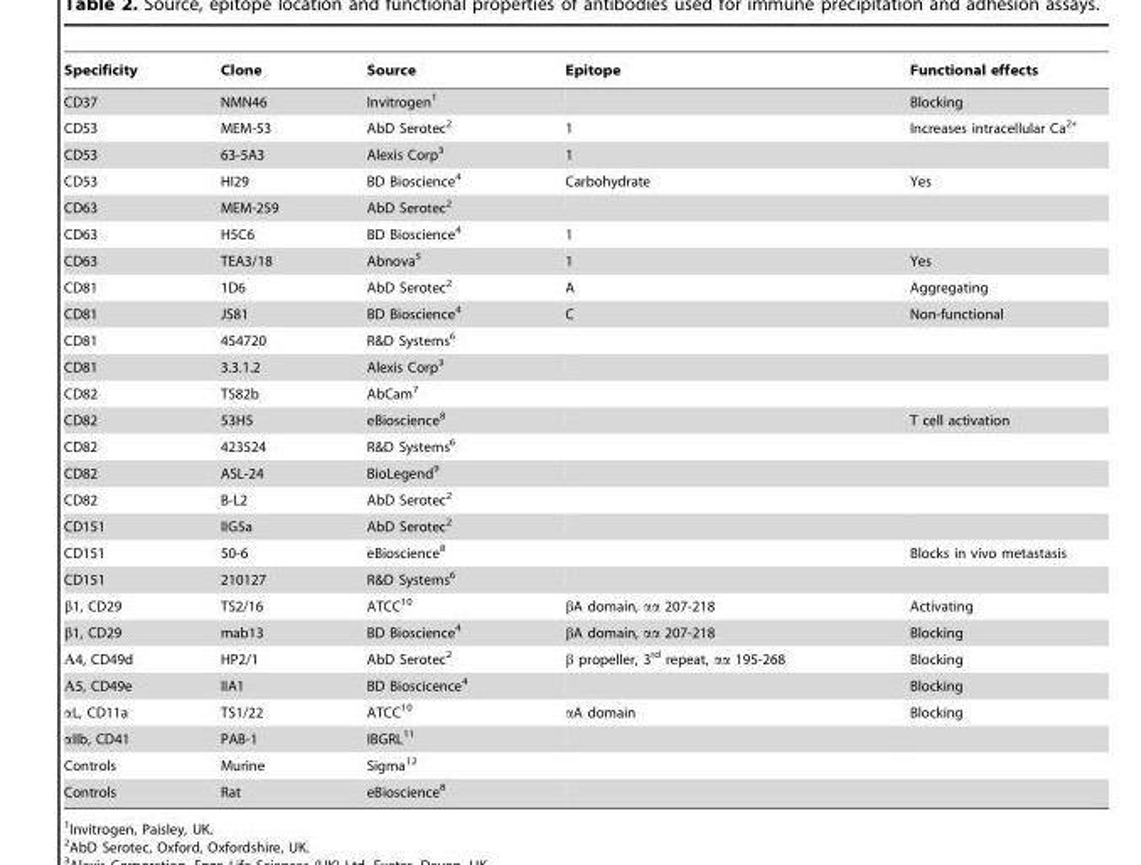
<table><thead><tr><td>Specificity</td><td>Clone</td><td>Source</td><td>Epitope</td><td>Functional effects</td></tr></thead><tbody><tr><td>CD37</td><td>NMN46</td><td>Invitrogen<sup>1</sup></td><td></td><td>Blocking</td></tr><tr><td>CD53</td><td>MEM-53</td><td>AbD Serotec<sup>2</sup></td><td>1</td><td>Increases intracellular Ca<sup>2+</sup></td></tr><tr><td>CD53</td><td>63-5A3</td><td>Alexis Corp<sup>3</sup></td><td>1</td><td></td></tr><tr><td>CD53</td><td>HI29</td><td>BD Bioscience<sup>4</sup></td><td>Carbohydrate</td><td>Yes</td></tr><tr><td>CD63</td><td>MEM-259</td><td>AbD Serotec<sup>2</sup></td><td></td><td></td></tr><tr><td>CD63</td><td>H5C6</td><td>BD Bioscience<sup>4</sup></td><td>1</td><td></td></tr><tr><td>CD63</td><td>TEA3/18</td><td>Abnova<sup>5</sup></td><td>1</td><td>Yes</td></tr><tr><td>CD81</td><td>1D6</td><td>AbD Serotec<sup>2</sup></td><td>A</td><td>Aggregating</td></tr><tr><td>CD81</td><td>JS81</td><td>BD Bioscience<sup>4</sup></td><td>C</td><td>Non-functional</td></tr><tr><td>CD81</td><td>454720</td><td>R&amp;D Systems<sup>6</sup></td><td></td><td></td></tr><tr><td>CD81</td><td>3.3.1.2</td><td>Alexis Corp<sup>3</sup></td><td></td><td></td></tr><tr><td>CD82</td><td>TS82b</td><td>AbCam<sup>7</sup></td><td></td><td></td></tr><tr><td>CD82</td><td>53H5</td><td>eBioscience<sup>8</sup></td><td></td><td>T cell activation</td></tr><tr><td>CD82</td><td>423524</td><td>R&amp;D Systems<sup>6</sup></td><td></td><td></td></tr><tr><td>CD82</td><td>ASL-24</td><td>BioLegend<sup>9</sup></td><td></td><td></td></tr><tr><td>CD82</td><td>B-L2</td><td>AbD Serotec<sup>2</sup></td><td></td><td></td></tr><tr><td>CD151</td><td>IIG5a</td><td>AbD Serotec<sup>2</sup></td><td></td><td></td></tr><tr><td>CD151</td><td>50-6</td><td>eBioscience<sup>8</sup></td><td></td><td>Blocks in vivo metastasis</td></tr><tr><td>CD151</td><td>210127</td><td>R&amp;D Systems<sup>6</sup></td><td></td><td></td></tr><tr><td>β1, CD29</td><td>TS2/16</td><td>ATCC<sup>10</sup></td><td>βA domain, αα 207-218</td><td>Activating</td></tr><tr><td>β1, CD29</td><td>mab13</td><td>BD Bioscience<sup>4</sup></td><td>βA domain, αα 207-218</td><td>Blocking</td></tr><tr><td>A4, CD49d</td><td>HP2/1</td><td>AbD Serotec<sup>2</sup></td><td>β propeller, 3<sup>rd</sup> repeat, αα 195-268</td><td>Blocking</td></tr><tr><td>A5, CD49e</td><td>IIA1</td><td>BD Bioscicence<sup>4</sup></td><td></td><td>Blocking</td></tr><tr><td>αL, CD11a</td><td>TS1/22</td><td>ATCC<sup>10</sup></td><td>αA domain</td><td>Blocking</td></tr><tr><td>αIIb, CD41</td><td>PAB-1</td><td>IBGRL<sup>11</sup></td><td></td><td></td></tr><tr><td>Controls</td><td>Murine</td><td>Sigma<sup>12</sup></td><td></td><td></td></tr><tr><td>Controls</td><td>Rat</td><td>eBioscience<sup>8</sup></td><td></td><td></td></tr></tbody></table>